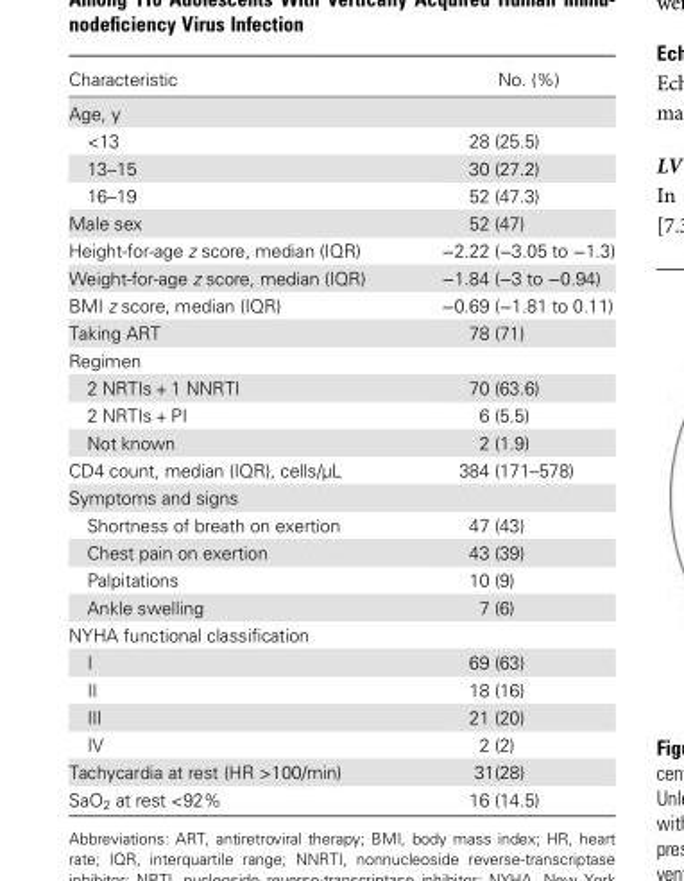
<table><thead><tr><td>Characteristic</td><td>No. (%)</td></tr></thead><tbody><tr><td colspan="2">Age, y</td></tr><tr><td>&lt;13</td><td>28 (25.5)</td></tr><tr><td>13–15</td><td>30 (27.2)</td></tr><tr><td>16–19</td><td>52 (47.3)</td></tr><tr><td>Male sex</td><td>52 (47)</td></tr><tr><td>Height-for-age z score, median (IQR)</td><td>−2.22 (−3.05 to −1.3)</td></tr><tr><td>Weight-for-age z score, median (IQR)</td><td>−1.84 (−3 to −0.94)</td></tr><tr><td>BMI z score, median (IQR)</td><td>−0.69 (−1.81 to 0.11)</td></tr><tr><td>Taking ART</td><td>78 (71)</td></tr><tr><td colspan="2">Regimen</td></tr><tr><td>2 NRTIs + 1 NNRTI</td><td>70 (63.6)</td></tr><tr><td>2 NRTIs + PI</td><td>6 (5.5)</td></tr><tr><td>Not known</td><td>2 (1.9)</td></tr><tr><td>CD4 count, median (IQR), cells/µL</td><td>384 (171–578)</td></tr><tr><td colspan="2">Symptoms and signs</td></tr><tr><td>Shortness of breath on exertion</td><td>47 (43)</td></tr><tr><td>Chest pain on exertion</td><td>43 (39)</td></tr><tr><td>Palpitations</td><td>10 (9)</td></tr><tr><td>Ankle swelling</td><td>7 (6)</td></tr><tr><td colspan="2">NYHA functional classification</td></tr><tr><td>I</td><td>69 (63)</td></tr><tr><td>II</td><td>18 (16)</td></tr><tr><td>III</td><td>21 (20)</td></tr><tr><td>IV</td><td>2 (2)</td></tr><tr><td>Tachycardia at rest (HR &gt;100/min)</td><td>31(28)</td></tr><tr><td>SaO<sub>2</sub> at rest &lt;92%</td><td>16 (14.5)</td></tr></tbody></table>